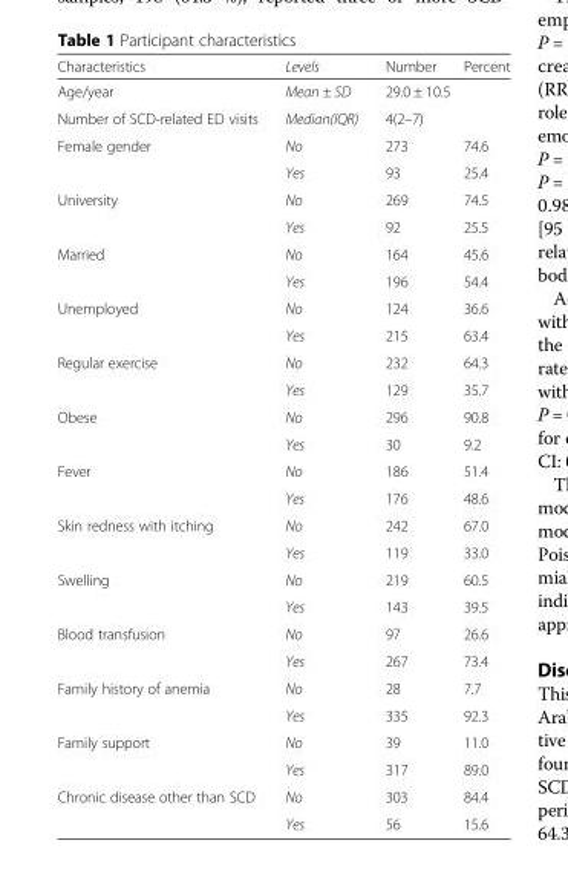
<table><thead><tr><td>Characteristics</td><td>Levels</td><td>Number</td><td>Percent</td></tr></thead><tbody><tr><td>Age/year</td><td>Mean ± SD</td><td colspan="2">29.0 ± 10.5</td></tr><tr><td>Number of SCD-related ED visits</td><td>Median(IQR)</td><td>4(2–7)</td><td></td></tr><tr><td rowspan="2">Female gender</td><td>No</td><td>273</td><td>74.6</td></tr><tr><td>Yes</td><td>93</td><td>25.4</td></tr><tr><td rowspan="2">University</td><td>No</td><td>269</td><td>74.5</td></tr><tr><td>Yes</td><td>92</td><td>25.5</td></tr><tr><td rowspan="2">Married</td><td>No</td><td>164</td><td>45.6</td></tr><tr><td>Yes</td><td>196</td><td>54.4</td></tr><tr><td rowspan="2">Unemployed</td><td>No</td><td>124</td><td>36.6</td></tr><tr><td>Yes</td><td>215</td><td>63.4</td></tr><tr><td rowspan="2">Regular exercise</td><td>No</td><td>232</td><td>64.3</td></tr><tr><td>Yes</td><td>129</td><td>35.7</td></tr><tr><td rowspan="2">Obese</td><td>No</td><td>296</td><td>90.8</td></tr><tr><td>Yes</td><td>30</td><td>9.2</td></tr><tr><td rowspan="2">Fever</td><td>No</td><td>186</td><td>51.4</td></tr><tr><td>Yes</td><td>176</td><td>48.6</td></tr><tr><td rowspan="2">Skin redness with itching</td><td>No</td><td>242</td><td>67.0</td></tr><tr><td>Yes</td><td>119</td><td>33.0</td></tr><tr><td rowspan="2">Swelling</td><td>No</td><td>219</td><td>60.5</td></tr><tr><td>Yes</td><td>143</td><td>39.5</td></tr><tr><td rowspan="2">Blood transfusion</td><td>No</td><td>97</td><td>26.6</td></tr><tr><td>Yes</td><td>267</td><td>73.4</td></tr><tr><td rowspan="2">Family history of anemia</td><td>No</td><td>28</td><td>7.7</td></tr><tr><td>Yes</td><td>335</td><td>92.3</td></tr><tr><td rowspan="2">Family support</td><td>No</td><td>39</td><td>11.0</td></tr><tr><td>Yes</td><td>317</td><td>89.0</td></tr><tr><td rowspan="2">Chronic disease other than SCD</td><td>No</td><td>303</td><td>84.4</td></tr><tr><td>Yes</td><td>56</td><td>15.6</td></tr></tbody></table>